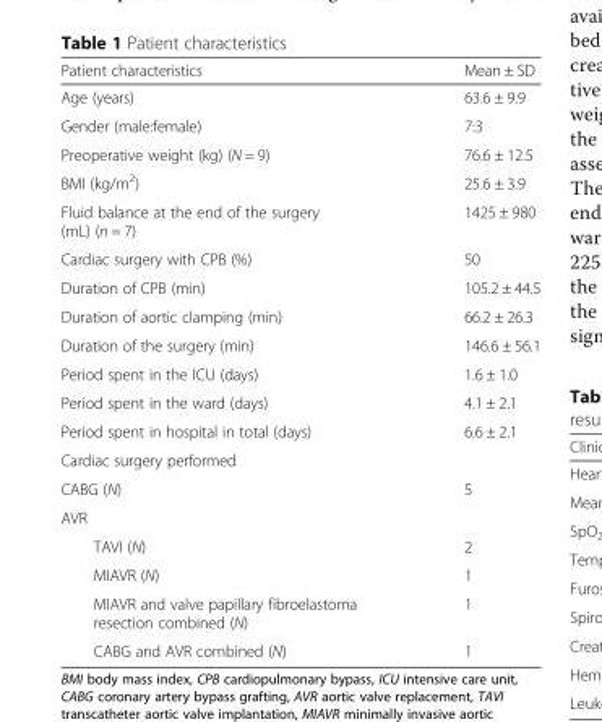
<table><thead><tr><td>Patient characteristics</td><td>Mean ± SD</td></tr></thead><tbody><tr><td>Age (years)</td><td>63.6 ± 9.9</td></tr><tr><td>Gender (male:female)</td><td>7:3</td></tr><tr><td>Preoperative weight (kg) (N = 9)</td><td>76.6 ± 12.5</td></tr><tr><td>BMI (kg/m<sup>2</sup>)</td><td>25.6 ± 3.9</td></tr><tr><td>Fluid balance at the end of the surgery (mL) (n = 7)</td><td>1425 ± 980</td></tr><tr><td>Cardiac surgery with CPB (%)</td><td>50</td></tr><tr><td>Duration of CPB (min)</td><td>105.2 ± 44.5</td></tr><tr><td>Duration of aortic clamping (min)</td><td>66.2 ± 26.3</td></tr><tr><td>Duration of the surgery (min)</td><td>146.6 ± 56.1</td></tr><tr><td>Period spent in the ICU (days)</td><td>1.6 ± 1.0</td></tr><tr><td>Period spent in the ward (days)</td><td>4.1 ± 2.1</td></tr><tr><td>Period spent in hospital in total (days)</td><td>6.6 ± 2.1</td></tr><tr><td colspan="2">Cardiac surgery performed</td></tr><tr><td>CABG (N)</td><td>5</td></tr><tr><td colspan="2">AVR</td></tr><tr><td>TAVI (N)</td><td>2</td></tr><tr><td>MIAVR (N)</td><td>1</td></tr><tr><td>MIAVR and valve papillary fibroelastoma resection combined (N)</td><td>1</td></tr><tr><td>CABG and AVR combined (N)</td><td>1</td></tr></tbody></table>